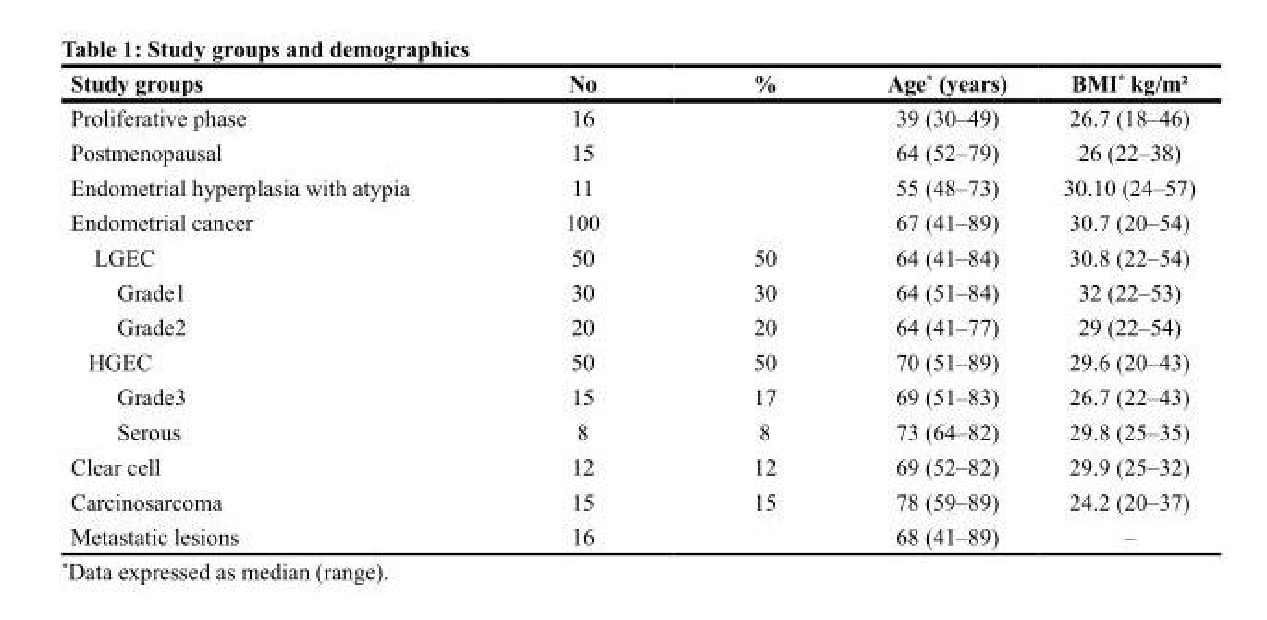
<table><thead><tr><td>Study groups</td><td>No</td><td>%</td><td>Age* (years)</td><td>BMI* kg/m²</td></tr></thead><tbody><tr><td>Proliferative phase</td><td>16</td><td></td><td>39 (30–49)</td><td>26.7 (18–46)</td></tr><tr><td>Postmenopausal</td><td>15</td><td></td><td>64 (52–79)</td><td>26 (22–38)</td></tr><tr><td>Endometrial hyperplasia with atypia</td><td>11</td><td></td><td>55 (48–73)</td><td>30.10 (24–57)</td></tr><tr><td>Endometrial cancer</td><td>100</td><td></td><td>67 (41–89)</td><td>30.7 (20–54)</td></tr><tr><td>LGEC</td><td>50</td><td>50</td><td>64 (41–84)</td><td>30.8 (22–54)</td></tr><tr><td>Grade1</td><td>30</td><td>30</td><td>64 (51–84)</td><td>32 (22–53)</td></tr><tr><td>Grade2</td><td>20</td><td>20</td><td>64 (41–77)</td><td>29 (22–54)</td></tr><tr><td>HGEC</td><td>50</td><td>50</td><td>70 (51–89)</td><td>29.6 (20–43)</td></tr><tr><td>Grade3</td><td>15</td><td>17</td><td>69 (51–83)</td><td>26.7 (22–43)</td></tr><tr><td>Serous</td><td>8</td><td>8</td><td>73 (64–82)</td><td>29.8 (25–35)</td></tr><tr><td>Clear cell</td><td>12</td><td>12</td><td>69 (52–82)</td><td>29.9 (25–32)</td></tr><tr><td>Carcinosarcoma</td><td>15</td><td>15</td><td>78 (59–89)</td><td>24.2 (20–37)</td></tr><tr><td>Metastatic lesions</td><td>16</td><td></td><td>68 (41–89)</td><td>–</td></tr></tbody></table>